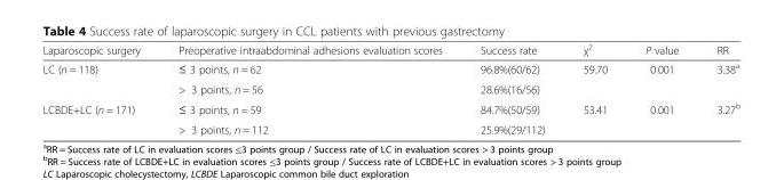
<table><thead><tr><td>Laparoscopic surgery</td><td>Preoperative intraabdominal adhesions evaluation scores</td><td>Success rate</td><td>χ<sup>2</sup></td><td>P value</td><td>RR</td></tr></thead><tbody><tr><td rowspan="2">LC (n = 118)</td><td>≤ 3 points, n = 62</td><td>96.8%(60/62)</td><td>59.70</td><td>0.001</td><td>3.38<sup>a</sup></td></tr><tr><td>&gt; 3 points, n = 56</td><td>28.6%(16/56)</td><td></td><td></td><td></td></tr><tr><td rowspan="2">LCBDE+LC (n = 171)</td><td>≤ 3 points, n = 59</td><td>84.7%(50/59)</td><td>53.41</td><td>0.001</td><td>3.27<sup>b</sup></td></tr><tr><td>&gt; 3 points, n = 112</td><td>25.9%(29/112)</td><td></td><td></td><td></td></tr></tbody></table>